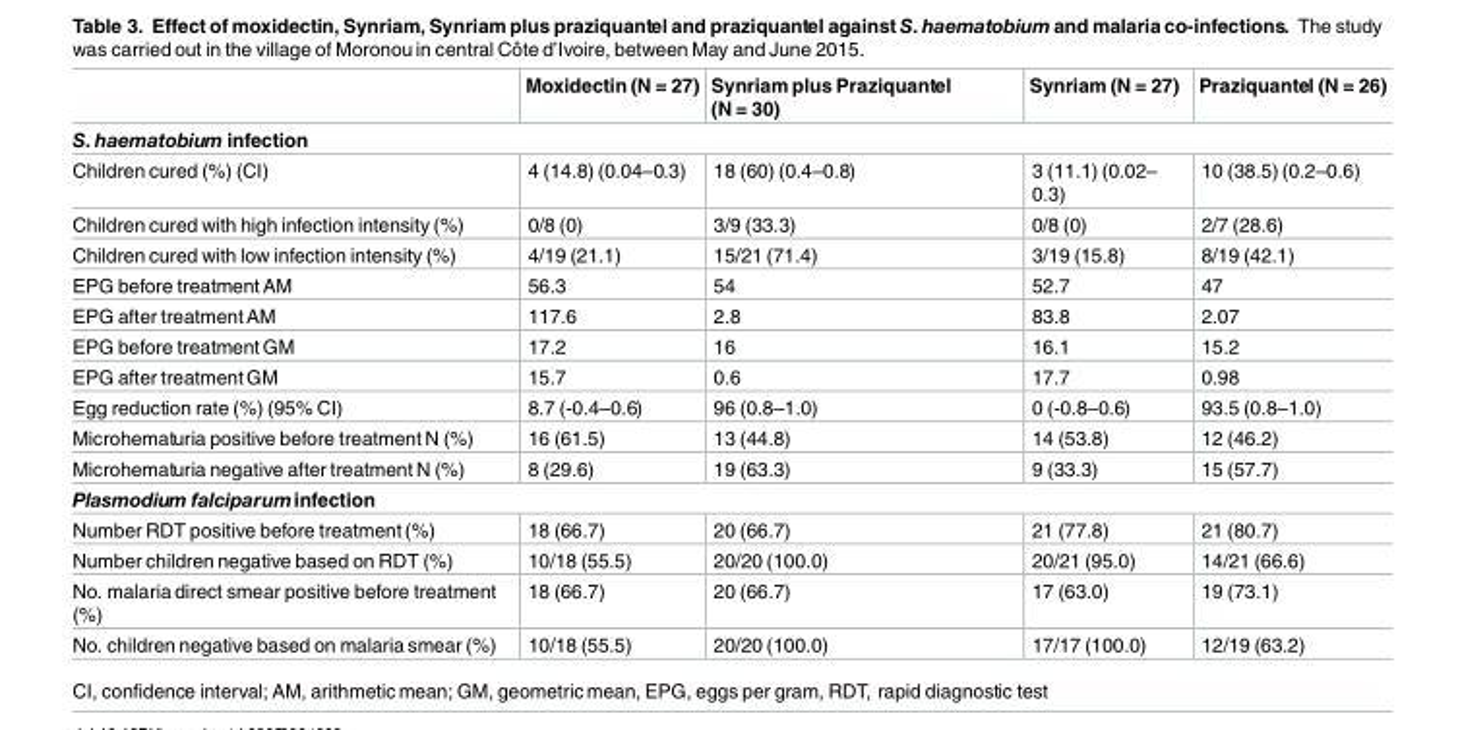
<table><thead><tr><td></td><td>Moxidectin (N = 27)</td><td>Synriam plus Praziquantel (N = 30)</td><td>Synriam (N = 27)</td><td>Praziquantel (N = 26)</td></tr></thead><tbody><tr><td colspan="5">S. haematobium infection</td></tr><tr><td>Children cured (%) (CI)</td><td>4 (14.8) (0.04–0.3)</td><td>18 (60) (0.4–0.8)</td><td>3 (11.1) (0.02– 0.3)</td><td>10 (38.5) (0.2–0.6)</td></tr><tr><td>Children cured with high infection intensity (%)</td><td>0/8 (0)</td><td>3/9 (33.3)</td><td>0/8 (0)</td><td>2/7 (28.6)</td></tr><tr><td>Children cured with low infection intensity (%)</td><td>4/19 (21.1)</td><td>15/21 (71.4)</td><td>3/19 (15.8)</td><td>8/19 (42.1)</td></tr><tr><td>EPG before treatment AM</td><td>56.3</td><td>54</td><td>52.7</td><td>47</td></tr><tr><td>EPG after treatment AM</td><td>117.6</td><td>2.8</td><td>83.8</td><td>2.07</td></tr><tr><td>EPG before treatment GM</td><td>17.2</td><td>16</td><td>16.1</td><td>15.2</td></tr><tr><td>EPG after treatment GM</td><td>15.7</td><td>0.6</td><td>17.7</td><td>0.98</td></tr><tr><td>Egg reduction rate (%) (95% CI)</td><td>8.7 (-0.4–0.6)</td><td>96 (0.8–1.0)</td><td>0 (-0.8–0.6)</td><td>93.5 (0.8–1.0)</td></tr><tr><td>Microhematuria positive before treatment N (%)</td><td>16 (61.5)</td><td>13 (44.8)</td><td>14 (53.8)</td><td>12 (46.2)</td></tr><tr><td>Microhematuria negative after treatment N (%)</td><td>8 (29.6)</td><td>19 (63.3)</td><td>9 (33.3)</td><td>15 (57.7)</td></tr><tr><td colspan="5">Plasmodium falciparuminfection</td></tr><tr><td>Number RDT positive before treatment (%)</td><td>18 (66.7)</td><td>20 (66.7)</td><td>21 (77.8)</td><td>21 (80.7)</td></tr><tr><td>Number children negative based on RDT (%)</td><td>10/18 (55.5)</td><td>20/20 (100.0)</td><td>20/21 (95.0)</td><td>14/21 (66.6)</td></tr><tr><td>No. malaria direct smear positive before treatment (%)</td><td>18 (66.7)</td><td>20 (66.7)</td><td>17 (63.0)</td><td>19 (73.1)</td></tr><tr><td>No. children negative based on malaria smear (%)</td><td>10/18 (55.5)</td><td>20/20 (100.0)</td><td>17/17 (100.0)</td><td>12/19 (63.2)</td></tr></tbody></table>